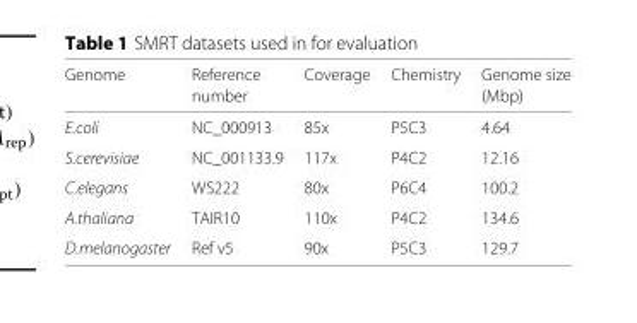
<table><thead><tr><td rowspan="2">Genome</td><td rowspan="2">Reference number</td><td rowspan="2">Coverage</td><td rowspan="2">Chemistry</td><td rowspan="2">Genome size (Mbp)</td></tr><tr></tr></thead><tbody><tr><td>E.coli</td><td>NC_000913</td><td>85x</td><td>P5C3</td><td>4.64</td></tr><tr><td>S.cerevisiae</td><td>NC_001133.9</td><td>117x</td><td>P4C2</td><td>12.16</td></tr><tr><td>C.elegans</td><td>WS222</td><td>80x</td><td>P6C4</td><td>100.2</td></tr><tr><td>A.thaliana</td><td>TAIR10</td><td>110x</td><td>P4C2</td><td>134.6</td></tr><tr><td>D.melanogaster</td><td>Ref v5</td><td>90x</td><td>P5C3</td><td>129.7</td></tr></tbody></table>